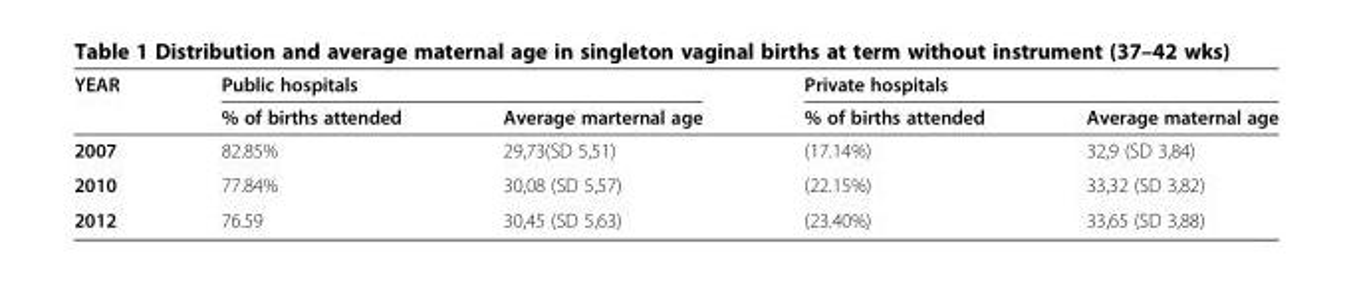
<table><thead><tr><td rowspan="2">YEAR</td><td colspan="2">Public hospitals</td><td colspan="2">Private hospitals</td></tr><tr><td>% of births attended</td><td>Average marternal age</td><td>% of births attended</td><td>Average maternal age</td></tr></thead><tbody><tr><td>2007</td><td>82.85%</td><td>29,73(SD 5,51)</td><td>(17.14%)</td><td>32,9 (SD 3,84)</td></tr><tr><td>2010</td><td>77.84%</td><td>30,08 (SD 5,57)</td><td>(22.15%)</td><td>33,32 (SD 3,82)</td></tr><tr><td>2012</td><td>76.59</td><td>30,45 (SD 5,63)</td><td>(23.40%)</td><td>33,65 (SD 3,88)</td></tr></tbody></table>